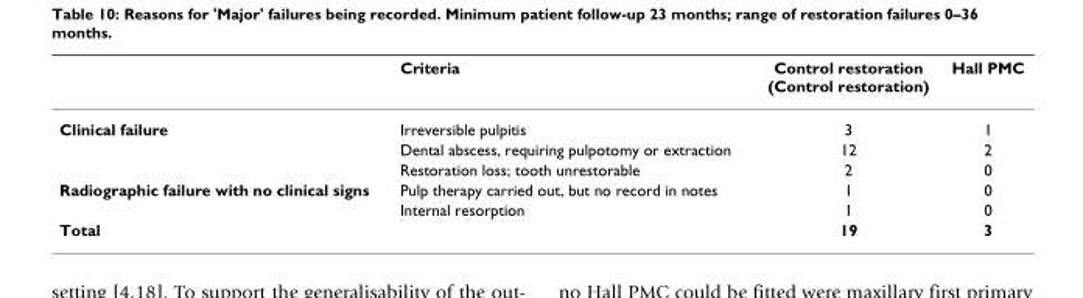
<table><thead><tr><td></td><td>Criteria</td><td>Control restoration (Control restoration)</td><td>Hall PMC</td></tr></thead><tbody><tr><td rowspan="3">Clinical failure</td><td>Irreversible pulpitis</td><td>3</td><td>1</td></tr><tr><td>Dental abscess, requiring pulpotomy or extraction</td><td>12</td><td>2</td></tr><tr><td>Restoration loss; tooth unrestorable</td><td>2</td><td>0</td></tr><tr><td rowspan="2">Radiographic failure with no clinical signs</td><td>Pulp therapy carried out, but no record in notes</td><td>1</td><td>0</td></tr><tr><td>Internal resorption</td><td>1</td><td>0</td></tr><tr><td>Total</td><td></td><td>19</td><td>3</td></tr></tbody></table>